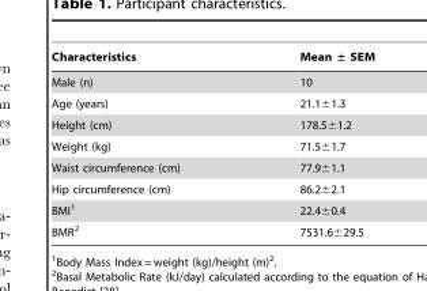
<table><thead><tr><td>Characteristics</td><td>Mean ± SEM</td></tr></thead><tbody><tr><td>Male (n)</td><td>10</td></tr><tr><td>Age (years)</td><td>21.1±1.3</td></tr><tr><td>Height (cm)</td><td>178.5±1.2</td></tr><tr><td>Weight (kg)</td><td>71.5±1.7</td></tr><tr><td>Waist circumference (cm)</td><td>77.9±1.1</td></tr><tr><td>Hip circumference (cm)</td><td>86.2±2.1</td></tr><tr><td>BMI<sup>1</sup></td><td>22.4±0.4</td></tr><tr><td>BMR<sup>2</sup></td><td>7531.6±29.5</td></tr></tbody></table>